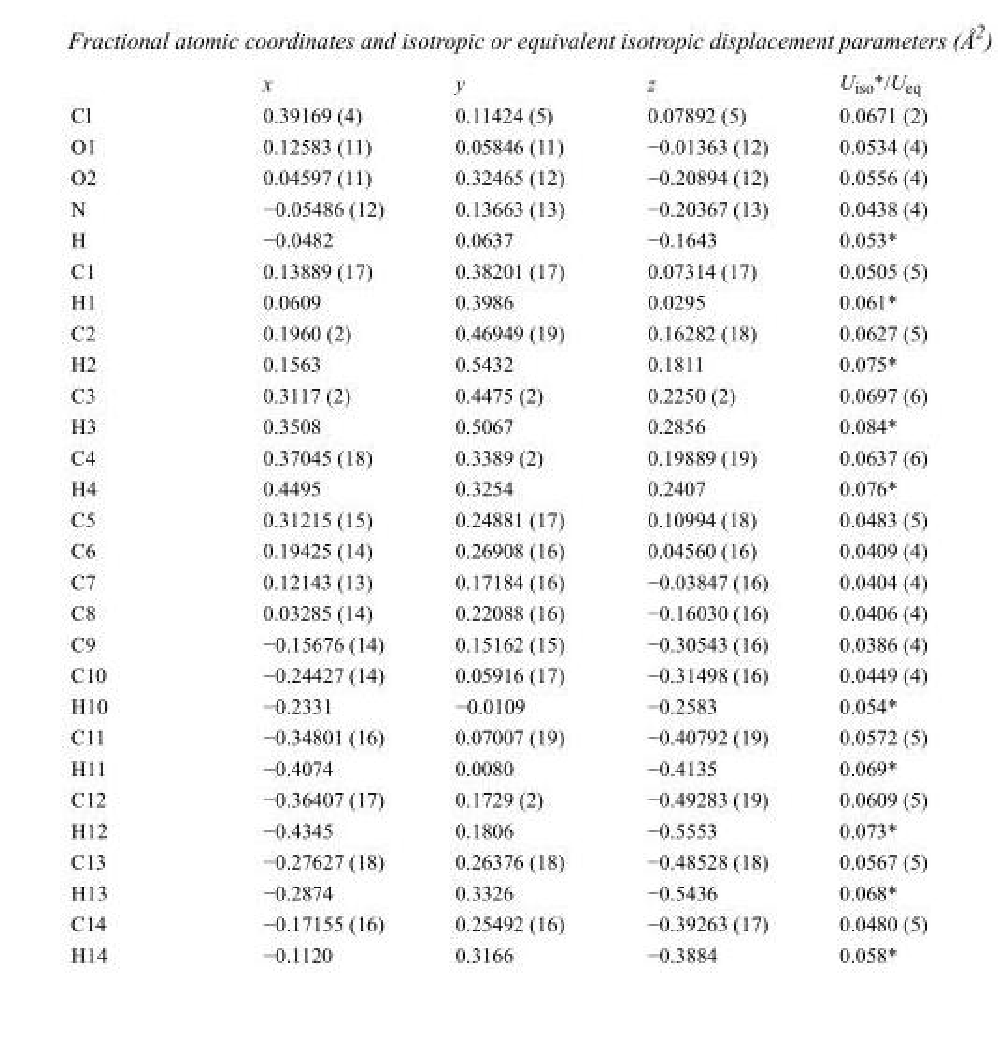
<table><thead><tr><td></td><td>x</td><td>y</td><td>z</td><td>U<sub>iso</sub>*/U<sub>eq</sub></td></tr></thead><tbody><tr><td>Cl</td><td>0.39169 (4)</td><td>0.11424 (5)</td><td>0.07892 (5)</td><td>0.0671 (2)</td></tr><tr><td>O1</td><td>0.12583 (11)</td><td>0.05846 (11)</td><td>−0.01363 (12)</td><td>0.0534 (4)</td></tr><tr><td>O2</td><td>0.04597 (11)</td><td>0.32465 (12)</td><td>−0.20894 (12)</td><td>0.0556 (4)</td></tr><tr><td>N</td><td>−0.05486 (12)</td><td>0.13663 (13)</td><td>−0.20367 (13)</td><td>0.0438 (4)</td></tr><tr><td>H</td><td>−0.0482</td><td>0.0637</td><td>−0.1643</td><td>0.053*</td></tr><tr><td>C1</td><td>0.13889 (17)</td><td>0.38201 (17)</td><td>0.07314 (17)</td><td>0.0505 (5)</td></tr><tr><td>H1</td><td>0.0609</td><td>0.3986</td><td>0.0295</td><td>0.061*</td></tr><tr><td>C2</td><td>0.1960 (2)</td><td>0.46949 (19)</td><td>0.16282 (18)</td><td>0.0627 (5)</td></tr><tr><td>H2</td><td>0.1563</td><td>0.5432</td><td>0.1811</td><td>0.075*</td></tr><tr><td>C3</td><td>0.3117 (2)</td><td>0.4475 (2)</td><td>0.2250 (2)</td><td>0.0697 (6)</td></tr><tr><td>H3</td><td>0.3508</td><td>0.5067</td><td>0.2856</td><td>0.084*</td></tr><tr><td>C4</td><td>0.37045 (18)</td><td>0.3389 (2)</td><td>0.19889 (19)</td><td>0.0637 (6)</td></tr><tr><td>H4</td><td>0.4495</td><td>0.3254</td><td>0.2407</td><td>0.076*</td></tr><tr><td>C5</td><td>0.31215 (15)</td><td>0.24881 (17)</td><td>0.10994 (18)</td><td>0.0483 (5)</td></tr><tr><td>C6</td><td>0.19425 (14)</td><td>0.26908 (16)</td><td>0.04560 (16)</td><td>0.0409 (4)</td></tr><tr><td>C7</td><td>0.12143 (13)</td><td>0.17184 (16)</td><td>−0.03847 (16)</td><td>0.0404 (4)</td></tr><tr><td>C8</td><td>0.03285 (14)</td><td>0.22088 (16)</td><td>−0.16030 (16)</td><td>0.0406 (4)</td></tr><tr><td>C9</td><td>−0.15676 (14)</td><td>0.15162 (15)</td><td>−0.30543 (16)</td><td>0.0386 (4)</td></tr><tr><td>C10</td><td>−0.24427 (14)</td><td>0.05916 (17)</td><td>−0.31498 (16)</td><td>0.0449 (4)</td></tr><tr><td>H10</td><td>−0.2331</td><td>−0.0109</td><td>−0.2583</td><td>0.054*</td></tr><tr><td>C11</td><td>−0.34801 (16)</td><td>0.07007 (19)</td><td>−0.40792 (19)</td><td>0.0572 (5)</td></tr><tr><td>H11</td><td>−0.4074</td><td>0.0080</td><td>−0.4135</td><td>0.069*</td></tr><tr><td>C12</td><td>−0.36407 (17)</td><td>0.1729 (2)</td><td>−0.49283 (19)</td><td>0.0609 (5)</td></tr><tr><td>H12</td><td>−0.4345</td><td>0.1806</td><td>−0.5553</td><td>0.073*</td></tr><tr><td>C13</td><td>−0.27627 (18)</td><td>0.26376 (18)</td><td>−0.48528 (18)</td><td>0.0567 (5)</td></tr><tr><td>H13</td><td>−0.2874</td><td>0.3326</td><td>−0.5436</td><td>0.068*</td></tr><tr><td>C14</td><td>−0.17155 (16)</td><td>0.25492 (16)</td><td>−0.39263 (17)</td><td>0.0480 (5)</td></tr><tr><td>H14</td><td>−0.1120</td><td>0.3166</td><td>−0.3884</td><td>0.058*</td></tr></tbody></table>